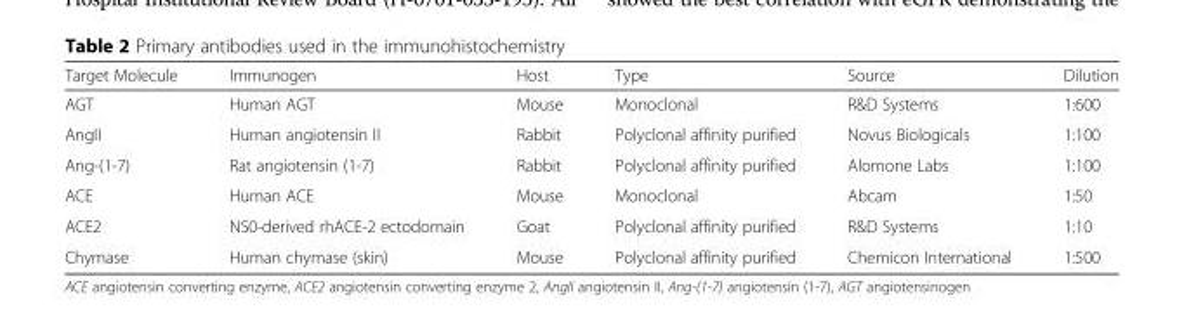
<table><thead><tr><td>Target Molecule</td><td>Immunogen</td><td>Host</td><td>Type</td><td>Source</td><td>Dilution</td></tr></thead><tbody><tr><td>AGT</td><td>Human AGT</td><td>Mouse</td><td>Monoclonal</td><td>R&amp;D Systems</td><td>1:600</td></tr><tr><td>AngII</td><td>Human angiotensin II</td><td>Rabbit</td><td>Polyclonal affinity purified</td><td>Novus Biologicals</td><td>1:100</td></tr><tr><td>Ang-(1-7)</td><td>Rat angiotensin (1-7)</td><td>Rabbit</td><td>Polyclonal affinity purified</td><td>Alomone Labs</td><td>1:100</td></tr><tr><td>ACE</td><td>Human ACE</td><td>Mouse</td><td>Monoclonal</td><td>Abcam</td><td>1:50</td></tr><tr><td>ACE2</td><td>NS0-derived rhACE-2 ectodomain</td><td>Goat</td><td>Polyclonal affinity purified</td><td>R&amp;D Systems</td><td>1:10</td></tr><tr><td>Chymase</td><td>Human chymase (skin)</td><td>Mouse</td><td>Polyclonal affinity purified</td><td>Chemicon International</td><td>1:500</td></tr></tbody></table>